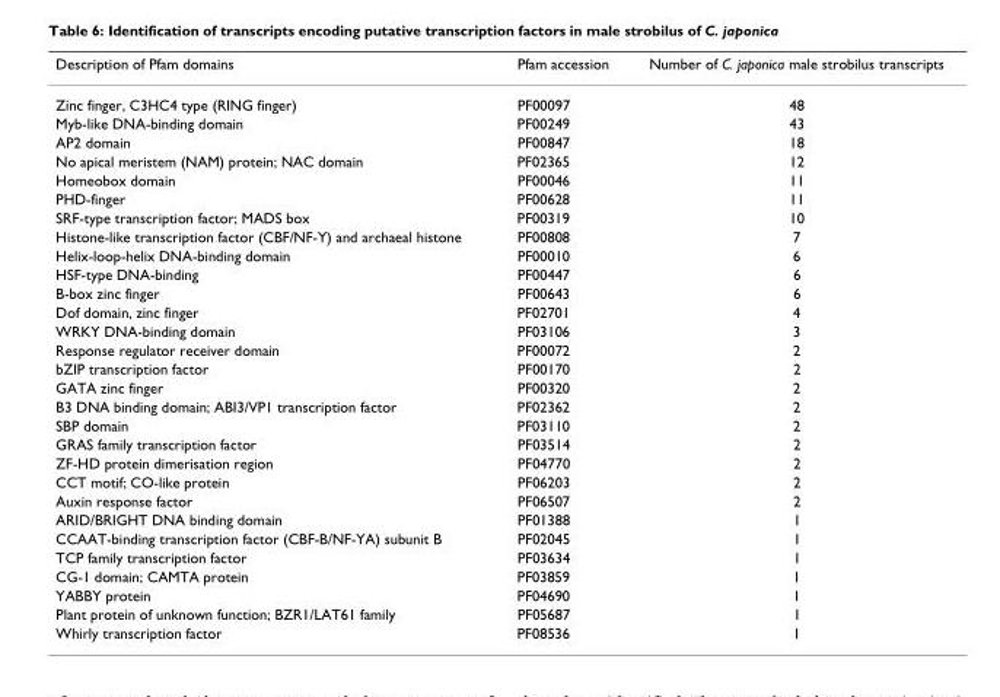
<table><thead><tr><td>Description of Pfam domains</td><td>Pfam accession</td><td>Number of C. japonica male strobilus transcripts</td></tr></thead><tbody><tr><td>Zinc finger, C3HC4 type (RING finger)</td><td>PF00097</td><td>48</td></tr><tr><td>Myb-like DNA-binding domain</td><td>PF00249</td><td>43</td></tr><tr><td>AP2 domain</td><td>PF00847</td><td>18</td></tr><tr><td>No apical meristem (NAM) protein; NAC domain</td><td>PF02365</td><td>12</td></tr><tr><td>Homeobox domain</td><td>PF00046</td><td>11</td></tr><tr><td>PHD-finger</td><td>PF00628</td><td>11</td></tr><tr><td>SRF-type transcription factor; MADS box</td><td>PF00319</td><td>10</td></tr><tr><td>Histone-like transcription factor (CBF/NF-Y) and archaeal histone</td><td>PF00808</td><td>7</td></tr><tr><td>Helix-loop-helix DNA-binding domain</td><td>PF00010</td><td>6</td></tr><tr><td>HSF-type DNA-binding</td><td>PF00447</td><td>6</td></tr><tr><td>B-box zinc finger</td><td>PF00643</td><td>6</td></tr><tr><td>Dof domain, zinc finger</td><td>PF02701</td><td>4</td></tr><tr><td>WRKY DNA-binding domain</td><td>PF03106</td><td>3</td></tr><tr><td>Response regulator receiver domain</td><td>PF00072</td><td>2</td></tr><tr><td>bZIP transcription factor</td><td>PF00170</td><td>2</td></tr><tr><td>GATA zinc finger</td><td>PF00320</td><td>2</td></tr><tr><td>B3 DNA binding domain; ABI3/VP1 transcription factor</td><td>PF02362</td><td>2</td></tr><tr><td>SBP domain</td><td>PF03110</td><td>2</td></tr><tr><td>GRAS family transcription factor</td><td>PF03514</td><td>2</td></tr><tr><td>ZF-HD protein dimerisation region</td><td>PF04770</td><td>2</td></tr><tr><td>CCT motif; CO-like protein</td><td>PF06203</td><td>2</td></tr><tr><td>Auxin response factor</td><td>PF06507</td><td>2</td></tr><tr><td>ARID/BRIGHT DNA binding domain</td><td>PF01388</td><td>1</td></tr><tr><td>CCAAT-binding transcription factor (CBF-B/NF-YA) subunit B</td><td>PF02045</td><td>1</td></tr><tr><td>TCP family transcription factor</td><td>PF03634</td><td>1</td></tr><tr><td>CG-1 domain; CAMTA protein</td><td>PF03859</td><td>1</td></tr><tr><td>YABBY protein</td><td>PF04690</td><td>1</td></tr><tr><td>Plant protein of unknown function; BZR1/LAT61 family</td><td>PF05687</td><td>1</td></tr><tr><td>Whirly transcription factor</td><td>PF08536</td><td>1</td></tr></tbody></table>